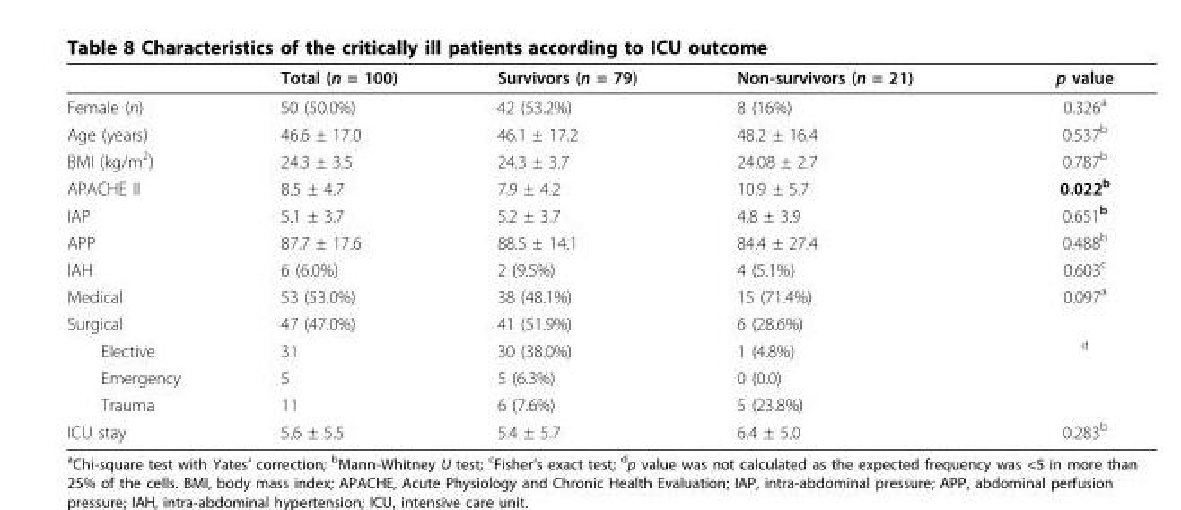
<table><thead><tr><td></td><td>Total (n = 100)</td><td>Survivors (n = 79)</td><td>Non-survivors (n = 21)</td><td>p value</td></tr></thead><tbody><tr><td>Female (n)</td><td>50 (50.0%)</td><td>42 (53.2%)</td><td>8 (16%)</td><td>0.326<sup>a</sup></td></tr><tr><td>Age (years)</td><td>46.6 ± 17.0</td><td>46.1 ± 17.2</td><td>48.2 ± 16.4</td><td>0.537<sup>b</sup></td></tr><tr><td>BMI (kg/m<sup>2</sup>)</td><td>24.3 ± 3.5</td><td>24.3 ± 3.7</td><td>24.08 ± 2.7</td><td>0.787<sup>b</sup></td></tr><tr><td>APACHE II</td><td>8.5 ± 4.7</td><td>7.9 ± 4.2</td><td>10.9 ± 5.7</td><td>0.022<sup>b</sup></td></tr><tr><td>IAP</td><td>5.1 ± 3.7</td><td>5.2 ± 3.7</td><td>4.8 ± 3.9</td><td>0.651<sup>b</sup></td></tr><tr><td>APP</td><td>87.7 ± 17.6</td><td>88.5 ± 14.1</td><td>84.4 ± 27.4</td><td>0.488<sup>b</sup></td></tr><tr><td>IAH</td><td>6 (6.0%)</td><td>2 (9.5%)</td><td>4 (5.1%)</td><td>0.603<sup>c</sup></td></tr><tr><td>Medical</td><td>53 (53.0%)</td><td>38 (48.1%)</td><td>15 (71.4%)</td><td>0.097<sup>a</sup></td></tr><tr><td>Surgical</td><td>47 (47.0%)</td><td>41 (51.9%)</td><td>6 (28.6%)</td><td></td></tr><tr><td>Elective</td><td>31</td><td>30 (38.0%)</td><td>1 (4.8%)</td><td><sup>d</sup></td></tr><tr><td>Emergency</td><td>5</td><td>5 (6.3%)</td><td>0 (0.0)</td><td></td></tr><tr><td>Trauma</td><td>11</td><td>6 (7.6%)</td><td>5 (23.8%)</td><td></td></tr><tr><td>ICU stay</td><td>5.6 ± 5.5</td><td>5.4 ± 5.7</td><td>6.4 ± 5.0</td><td>0.283<sup>b</sup></td></tr></tbody></table>